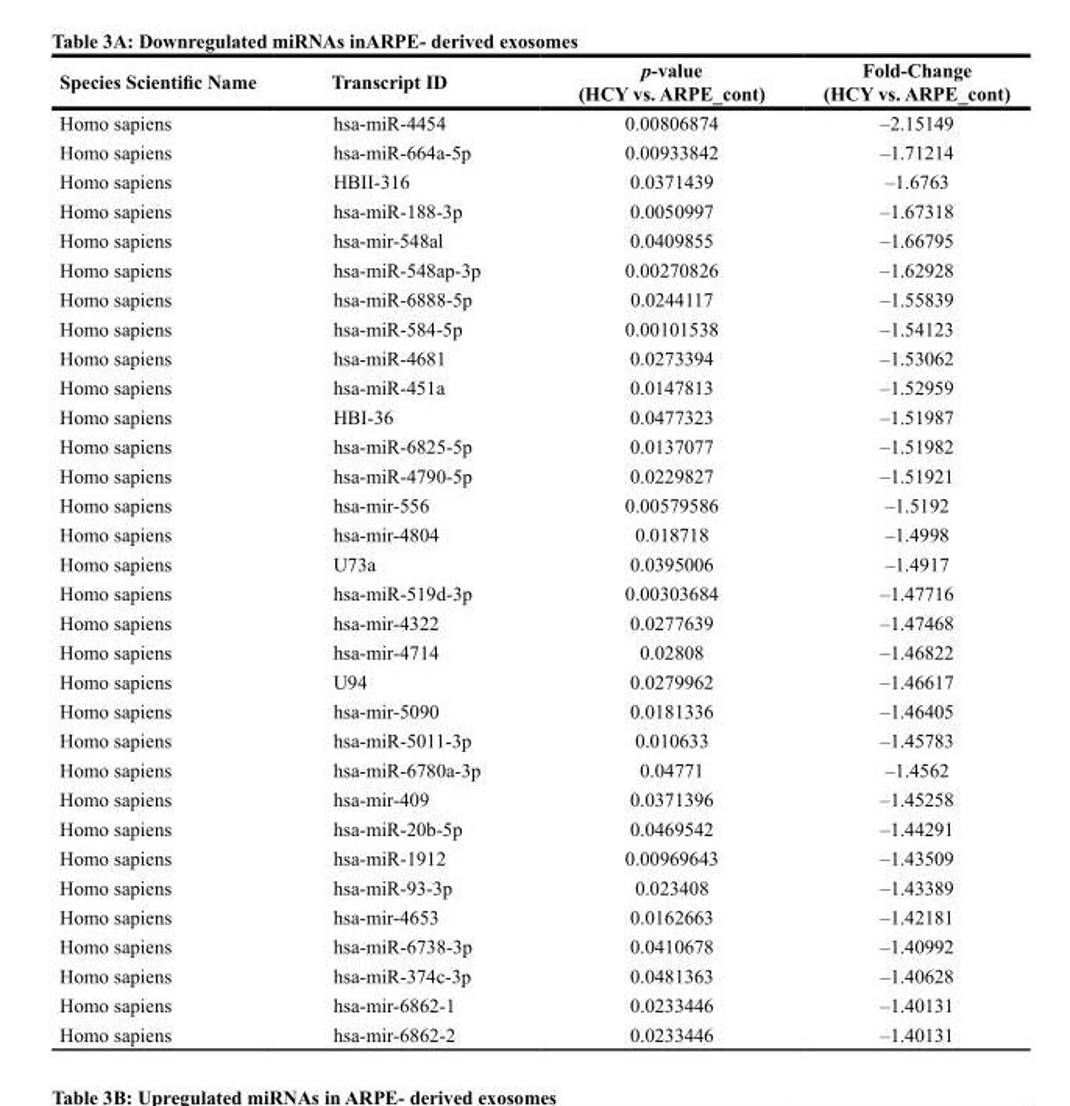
<table><thead><tr><td>Species Scientific Name</td><td>Transcript ID</td><td>p-value (HCY vs. ARPE_cont)</td><td>Fold-Change (HCY vs. ARPE_cont)</td></tr></thead><tbody><tr><td>Homo sapiens</td><td>hsa-miR-4454</td><td>0.00806874</td><td>–2.15149</td></tr><tr><td>Homo sapiens</td><td>hsa-miR-664a-5p</td><td>0.00933842</td><td>–1.71214</td></tr><tr><td>Homo sapiens</td><td>HBII-316</td><td>0.0371439</td><td>–1.6763</td></tr><tr><td>Homo sapiens</td><td>hsa-miR-188-3p</td><td>0.0050997</td><td>–1.67318</td></tr><tr><td>Homo sapiens</td><td>hsa-mir-548al</td><td>0.0409855</td><td>–1.66795</td></tr><tr><td>Homo sapiens</td><td>hsa-miR-548ap-3p</td><td>0.00270826</td><td>–1.62928</td></tr><tr><td>Homo sapiens</td><td>hsa-miR-6888-5p</td><td>0.0244117</td><td>–1.55839</td></tr><tr><td>Homo sapiens</td><td>hsa-miR-584-5p</td><td>0.00101538</td><td>–1.54123</td></tr><tr><td>Homo sapiens</td><td>hsa-miR-4681</td><td>0.0273394</td><td>–1.53062</td></tr><tr><td>Homo sapiens</td><td>hsa-miR-451a</td><td>0.0147813</td><td>–1.52959</td></tr><tr><td>Homo sapiens</td><td>HBI-36</td><td>0.0477323</td><td>–1.51987</td></tr><tr><td>Homo sapiens</td><td>hsa-miR-6825-5p</td><td>0.0137077</td><td>–1.51982</td></tr><tr><td>Homo sapiens</td><td>hsa-miR-4790-5p</td><td>0.0229827</td><td>–1.51921</td></tr><tr><td>Homo sapiens</td><td>hsa-mir-556</td><td>0.00579586</td><td>–1.5192</td></tr><tr><td>Homo sapiens</td><td>hsa-mir-4804</td><td>0.018718</td><td>–1.4998</td></tr><tr><td>Homo sapiens</td><td>U73a</td><td>0.0395006</td><td>–1.4917</td></tr><tr><td>Homo sapiens</td><td>hsa-miR-519d-3p</td><td>0.00303684</td><td>–1.47716</td></tr><tr><td>Homo sapiens</td><td>hsa-mir-4322</td><td>0.0277639</td><td>–1.47468</td></tr><tr><td>Homo sapiens</td><td>hsa-mir-4714</td><td>0.02808</td><td>–1.46822</td></tr><tr><td>Homo sapiens</td><td>U94</td><td>0.0279962</td><td>–1.46617</td></tr><tr><td>Homo sapiens</td><td>hsa-mir-5090</td><td>0.0181336</td><td>–1.46405</td></tr><tr><td>Homo sapiens</td><td>hsa-miR-5011-3p</td><td>0.010633</td><td>–1.45783</td></tr><tr><td>Homo sapiens</td><td>hsa-miR-6780a-3p</td><td>0.04771</td><td>–1.4562</td></tr><tr><td>Homo sapiens</td><td>hsa-mir-409</td><td>0.0371396</td><td>–1.45258</td></tr><tr><td>Homo sapiens</td><td>hsa-miR-20b-5p</td><td>0.0469542</td><td>–1.44291</td></tr><tr><td>Homo sapiens</td><td>hsa-miR-1912</td><td>0.00969643</td><td>–1.43509</td></tr><tr><td>Homo sapiens</td><td>hsa-miR-93-3p</td><td>0.023408</td><td>–1.43389</td></tr><tr><td>Homo sapiens</td><td>hsa-mir-4653</td><td>0.0162663</td><td>–1.42181</td></tr><tr><td>Homo sapiens</td><td>hsa-miR-6738-3p</td><td>0.0410678</td><td>–1.40992</td></tr><tr><td>Homo sapiens</td><td>hsa-miR-374c-3p</td><td>0.0481363</td><td>–1.40628</td></tr><tr><td>Homo sapiens</td><td>hsa-mir-6862-1</td><td>0.0233446</td><td>–1.40131</td></tr><tr><td>Homo sapiens</td><td>hsa-mir-6862-2</td><td>0.0233446</td><td>–1.40131</td></tr></tbody></table>